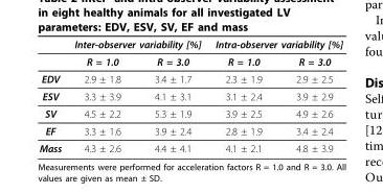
<table><thead><tr><td rowspan="2"></td><td colspan="2">Inter-observer variability [%]</td><td colspan="2">Intra-observer variability [%]</td></tr><tr><td>R = 1.0</td><td>R = 3.0</td><td>R = 1.0</td><td>R = 3.0</td></tr></thead><tbody><tr><td>EDV</td><td>2.9 ± 1.8</td><td>3.4 ± 1.7</td><td>2.3 ± 1.9</td><td>2.9 ± 2.5</td></tr><tr><td>ESV</td><td>3.3 ± 3.9</td><td>4.1 ± 3.1</td><td>3.1 ± 2.4</td><td>3.9 ± 2.9</td></tr><tr><td>SV</td><td>4.5 ± 2.2</td><td>5.3 ± 1.9</td><td>3.9 ± 2.5</td><td>4.9 ± 2.6</td></tr><tr><td>EF</td><td>3.3 ± 1.6</td><td>3.9 ± 2.4</td><td>2.8 ± 1.9</td><td>3.4 ± 2.4</td></tr><tr><td>Mass</td><td>4.3 ± 2.6</td><td>4.4 ± 4.1</td><td>4.1 ± 2.1</td><td>4.8 ± 3.9</td></tr></tbody></table>